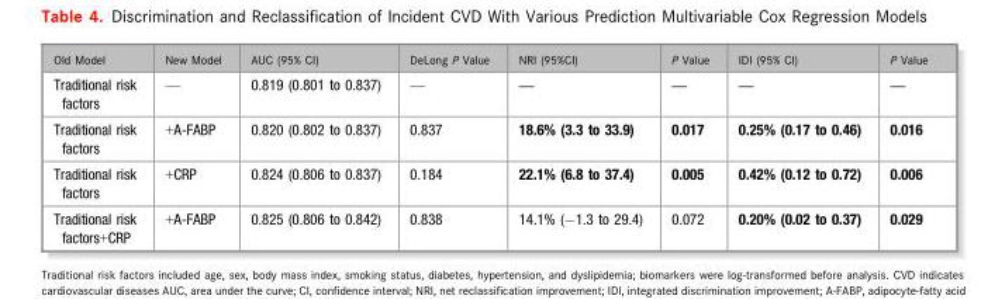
<table><thead><tr><td>Old Model</td><td>New Model</td><td>AUC (95% CI)</td><td>DeLong P Value</td><td>NRI (95%CI)</td><td>P Value</td><td>IDI (95% CI)</td><td>P Value</td></tr></thead><tbody><tr><td>Traditional risk factors</td><td>—</td><td>0.819 (0.801 to 0.837)</td><td>—</td><td>—</td><td>—</td><td>—</td><td>—</td></tr><tr><td>Traditional risk factors</td><td>+A-FABP</td><td>0.820 (0.802 to 0.837)</td><td>0.837</td><td>18.6% (3.3 to 33.9)</td><td>0.017</td><td>0.25% (0.17 to 0.46)</td><td>0.016</td></tr><tr><td>Traditional risk factors</td><td>+CRP</td><td>0.824 (0.806 to 0.837)</td><td>0.184</td><td>22.1% (6.8 to 37.4)</td><td>0.005</td><td>0.42% (0.12 to 0.72)</td><td>0.006</td></tr><tr><td>Traditional risk factors+CRP</td><td>+A-FABP</td><td>0.825 (0.806 to 0.842)</td><td>0.838</td><td>14.1% (−1.3 to 29.4)</td><td>0.072</td><td>0.20% (0.02 to 0.37)</td><td>0.029</td></tr></tbody></table>